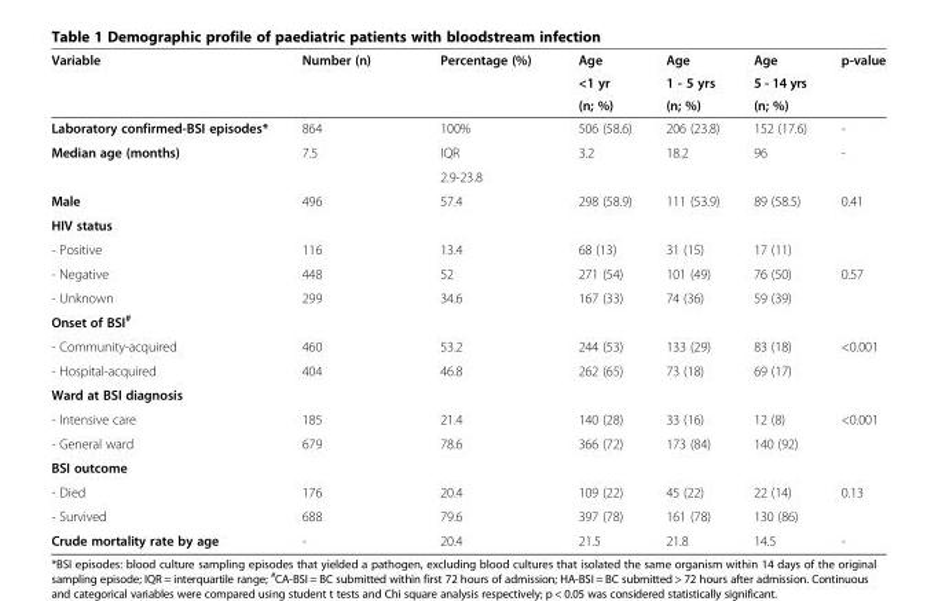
<table><thead><tr><td rowspan="3">Variable</td><td rowspan="3">Number (n)</td><td rowspan="3">Percentage (%)</td><td rowspan="3">Age &lt;1 yr (n; %)</td><td rowspan="3">Age 1 - 5 yrs (n; %)</td><td rowspan="3">Age 5 - 14 yrs (n; %)</td><td rowspan="3">p-value</td></tr><tr></tr><tr></tr></thead><tbody><tr><td>Laboratory confirmed-BSI episodes*</td><td>864</td><td>100%</td><td>506 (58.6)</td><td>206 (23.8)</td><td>152 (17.6)</td><td>-</td></tr><tr><td rowspan="2">Median age (months)</td><td>7.5</td><td>IQR</td><td>3.2</td><td>18.2</td><td>96</td><td>-</td></tr><tr><td></td><td>2.9-23.8</td><td></td><td></td><td></td><td></td></tr><tr><td>Male</td><td>496</td><td>57.4</td><td>298 (58.9)</td><td>111 (53.9)</td><td>89 (58.5)</td><td>0.41</td></tr><tr><td colspan="7">HIV status</td></tr><tr><td>- Positive</td><td>116</td><td>13.4</td><td>68 (13)</td><td>31 (15)</td><td>17 (11)</td><td></td></tr><tr><td>- Negative</td><td>448</td><td>52</td><td>271 (54)</td><td>101 (49)</td><td>76 (50)</td><td>0.57</td></tr><tr><td>- Unknown</td><td>299</td><td>34.6</td><td>167 (33)</td><td>74 (36)</td><td>59 (39)</td><td></td></tr><tr><td colspan="7">Onset of BSI<sup>#</sup></td></tr><tr><td>- Community-acquired</td><td>460</td><td>53.2</td><td>244 (53)</td><td>133 (29)</td><td>83 (18)</td><td>&lt;0.001</td></tr><tr><td>- Hospital-acquired</td><td>404</td><td>46.8</td><td>262 (65)</td><td>73 (18)</td><td>69 (17)</td><td></td></tr><tr><td colspan="7">Ward at BSI diagnosis</td></tr><tr><td>- Intensive care</td><td>185</td><td>21.4</td><td>140 (28)</td><td>33 (16)</td><td>12 (8)</td><td>&lt;0.001</td></tr><tr><td>- General ward</td><td>679</td><td>78.6</td><td>366 (72)</td><td>173 (84)</td><td>140 (92)</td><td></td></tr><tr><td colspan="7">BSI outcome</td></tr><tr><td>- Died</td><td>176</td><td>20.4</td><td>109 (22)</td><td>45 (22)</td><td>22 (14)</td><td>0.13</td></tr><tr><td>- Survived</td><td>688</td><td>79.6</td><td>397 (78)</td><td>161 (78)</td><td>130 (86)</td><td></td></tr><tr><td>Crude mortality rate by age</td><td>-</td><td>20.4</td><td>21.5</td><td>21.8</td><td>14.5</td><td>-</td></tr></tbody></table>